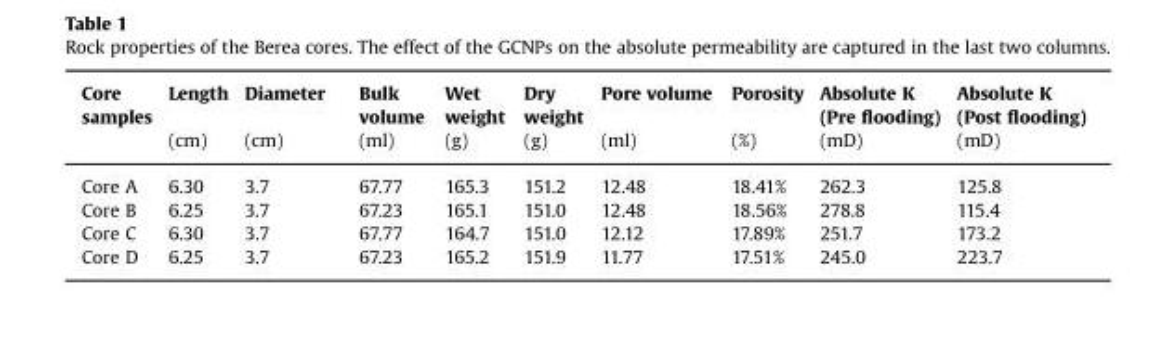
<table><thead><tr><td rowspan="2">Core samples</td><td rowspan="2">Length (cm)</td><td rowspan="2">Diameter (cm)</td><td rowspan="2">Bulk volume (ml)</td><td rowspan="2">Wet weight (g)</td><td rowspan="2">Dry weight (g)</td><td rowspan="2">Pore volume (ml)</td><td rowspan="2">Porosity (%)</td><td rowspan="2">Absolute K (Pre flooding) (mD)</td><td rowspan="2">Absolute K (Post flooding) (mD)</td></tr><tr></tr></thead><tbody><tr><td>Core A</td><td>6.30</td><td>3.7</td><td>67.77</td><td>165.3</td><td>151.2</td><td>12.48</td><td>18.41%</td><td>262.3</td><td>125.8</td></tr><tr><td>Core B</td><td>6.25</td><td>3.7</td><td>67.23</td><td>165.1</td><td>151.0</td><td>12.48</td><td>18.56%</td><td>278.8</td><td>115.4</td></tr><tr><td>Core C</td><td>6.30</td><td>3.7</td><td>67.77</td><td>164.7</td><td>151.0</td><td>12.12</td><td>17.89%</td><td>251.7</td><td>173.2</td></tr><tr><td>Core D</td><td>6.25</td><td>3.7</td><td>67.23</td><td>165.2</td><td>151.9</td><td>11.77</td><td>17.51%</td><td>245.0</td><td>223.7</td></tr></tbody></table>